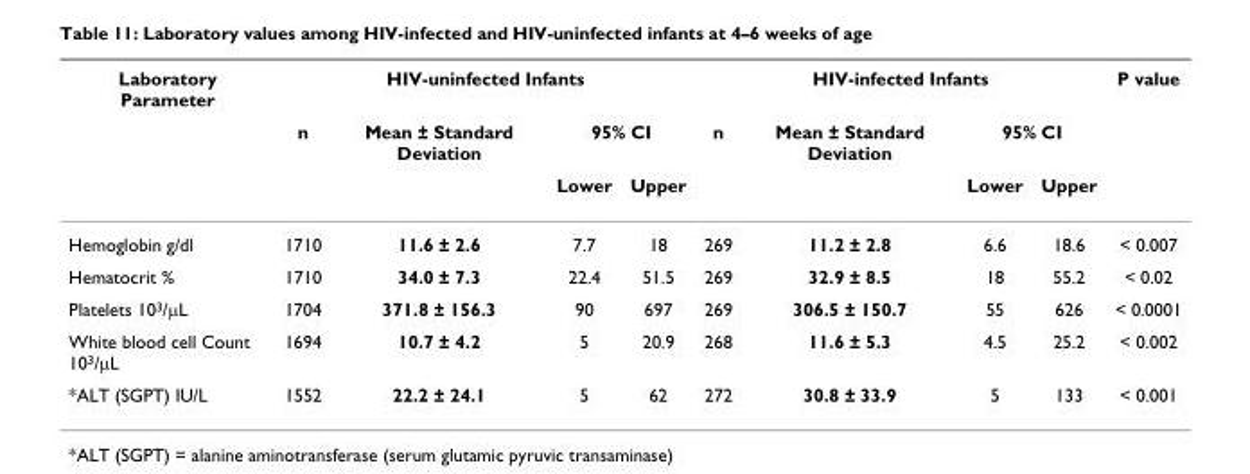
<table><thead><tr><td rowspan="3">Laboratory Parameter</td><td colspan="4">HIV-uninfected Infants</td><td colspan="4">HIV-infected Infants</td><td rowspan="3">P value</td></tr><tr><td rowspan="2">n</td><td rowspan="2">Mean ± Standard Deviation</td><td colspan="2">95% CI</td><td rowspan="2">n</td><td rowspan="2">Mean ± Standard Deviation</td><td colspan="2">95% CI</td></tr><tr><td>Lower</td><td>Upper</td><td>Lower</td><td>Upper</td></tr></thead><tbody><tr><td>Hemoglobin g/dl</td><td>1710</td><td>11.6 ± 2.6</td><td>7.7</td><td>18</td><td>269</td><td>11.2 ± 2.8</td><td>6.6</td><td>18.6</td><td>&lt; 0.007</td></tr><tr><td>Hematocrit %</td><td>1710</td><td>34.0 ± 7.3</td><td>22.4</td><td>51.5</td><td>269</td><td>32.9 ± 8.5</td><td>18</td><td>55.2</td><td>&lt; 0.02</td></tr><tr><td>Platelets 10<sup>3</sup>/μL</td><td>1704</td><td>371.8 ± 156.3</td><td>90</td><td>697</td><td>269</td><td>306.5 ± 150.7</td><td>55</td><td>626</td><td>&lt; 0.0001</td></tr><tr><td>White blood cell Count 10<sup>3</sup>/μL</td><td>1694</td><td>10.7 ± 4.2</td><td>5</td><td>20.9</td><td>268</td><td>11.6 ± 5.3</td><td>4.5</td><td>25.2</td><td>&lt; 0.002</td></tr><tr><td>*ALT (SGPT) IU/L</td><td>1552</td><td>22.2 ± 24.1</td><td>5</td><td>62</td><td>272</td><td>30.8 ± 33.9</td><td>5</td><td>133</td><td>&lt; 0.001</td></tr></tbody></table>